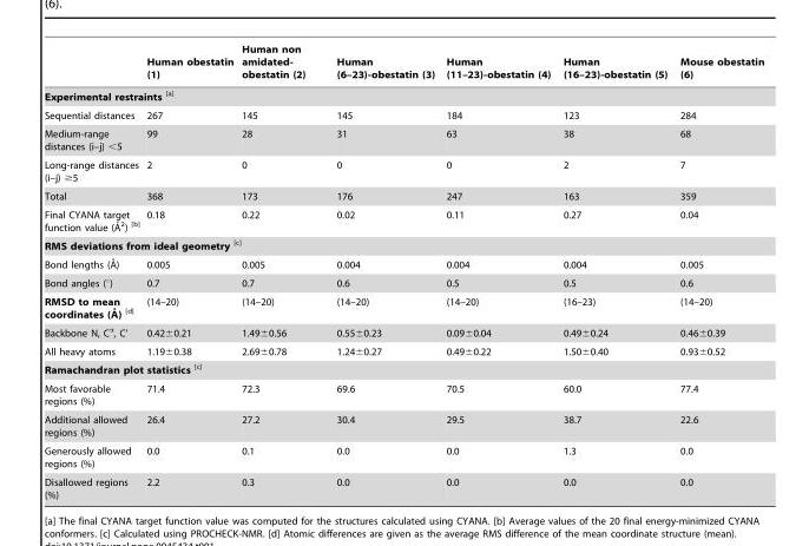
<table><thead><tr><td></td><td>Human obestatin (1)</td><td>Human non amidated- obestatin (2)</td><td>Human (6–23)-obestatin (3)</td><td>Human (11–23)-obestatin (4)</td><td>Human (16–23)-obestatin (5)</td><td>Mouse obestatin (6)</td></tr></thead><tbody><tr><td colspan="7">Experimental restraints [a]</td></tr><tr><td>Sequential distances</td><td>267</td><td>145</td><td>145</td><td>184</td><td>123</td><td>284</td></tr><tr><td>Medium-range distances (i–j) &lt;5</td><td>99</td><td>28</td><td>31</td><td>63</td><td>38</td><td>68</td></tr><tr><td>Long-range distances (i–j) ≥5</td><td>2</td><td>0</td><td>0</td><td>0</td><td>2</td><td>7</td></tr><tr><td>Total</td><td>368</td><td>173</td><td>176</td><td>247</td><td>163</td><td>359</td></tr><tr><td>Final CYANA target function value (A˚ 2) [b]</td><td>0.18</td><td>0.22</td><td>0.02</td><td>0.11</td><td>0.27</td><td>0.04</td></tr><tr><td colspan="7">RMS deviations from ideal geometry [c]</td></tr><tr><td>Bond lengths (A˚)</td><td>0.005</td><td>0.005</td><td>0.004</td><td>0.004</td><td>0.004</td><td>0.005</td></tr><tr><td>Bond angles (°)</td><td>0.7</td><td>0.7</td><td>0.6</td><td>0.5</td><td>0.5</td><td>0.6</td></tr><tr><td>RMSD to mean coordinates (A˚ ) [d]</td><td>(14–20)</td><td>(14–20)</td><td>(14–20)</td><td>(14–20)</td><td>(16–23)</td><td>(14–20)</td></tr><tr><td>Backbone N, C<sup>α</sup>, C’</td><td>0.42±0.21</td><td>1.49±0.56</td><td>0.55±0.23</td><td>0.09±0.04</td><td>0.49±0.24</td><td>0.46±0.39</td></tr><tr><td>All heavy atoms</td><td>1.19±0.38</td><td>2.69±0.78</td><td>1.24±0.27</td><td>0.49±0.22</td><td>1.50±0.40</td><td>0.93±0.52</td></tr><tr><td colspan="7">Ramachandran plot statistics [c]</td></tr><tr><td>Most favorable regions (%)</td><td>71.4</td><td>72.3</td><td>69.6</td><td>70.5</td><td>60.0</td><td>77.4</td></tr><tr><td>Additional allowed regions (%)</td><td>26.4</td><td>27.2</td><td>30.4</td><td>29.5</td><td>38.7</td><td>22.6</td></tr><tr><td>Generously allowed regions (%)</td><td>0.0</td><td>0.1</td><td>0.0</td><td>0.0</td><td>1.3</td><td>0.0</td></tr><tr><td>Disallowed regions (%)</td><td>2.2</td><td>0.3</td><td>0.0</td><td>0.0</td><td>0.0</td><td>0.0</td></tr></tbody></table>